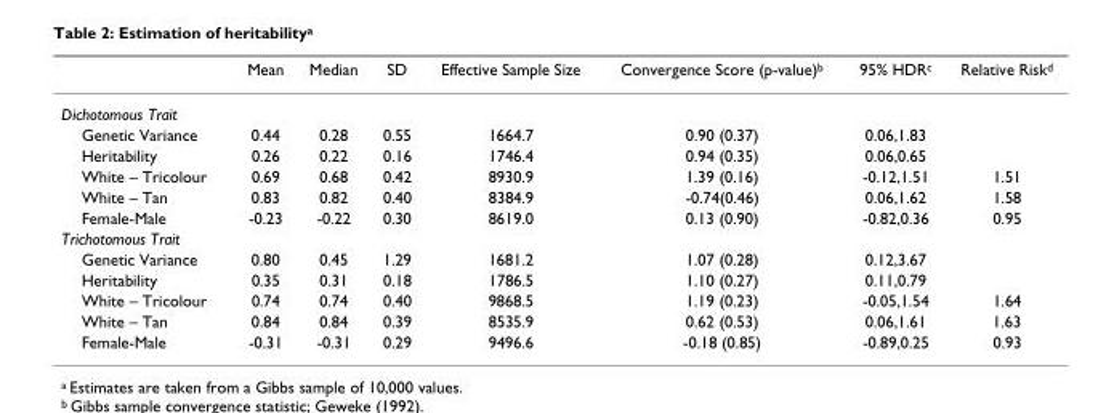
<table><thead><tr><td></td><td>Mean</td><td>Median</td><td>SD</td><td>Effective Sample Size</td><td>Convergence Score (p-value)<sup>b</sup></td><td>95% HDR<sup>c</sup></td><td>Relative Risk<sup>d</sup></td></tr></thead><tbody><tr><td colspan="8">Dichotomous Trait</td></tr><tr><td>Genetic Variance</td><td>0.44</td><td>0.28</td><td>0.55</td><td>1664.7</td><td>0.90 (0.37)</td><td>0.06,1.83</td><td></td></tr><tr><td>Heritability</td><td>0.26</td><td>0.22</td><td>0.16</td><td>1746.4</td><td>0.94 (0.35)</td><td>0.06,0.65</td><td></td></tr><tr><td>White – Tricolour</td><td>0.69</td><td>0.68</td><td>0.42</td><td>8930.9</td><td>1.39 (0.16)</td><td>-0.12,1.51</td><td>1.51</td></tr><tr><td>White – Tan</td><td>0.83</td><td>0.82</td><td>0.40</td><td>8384.9</td><td>-0.74(0.46)</td><td>0.06,1.62</td><td>1.58</td></tr><tr><td>Female-Male</td><td>-0.23</td><td>-0.22</td><td>0.30</td><td>8619.0</td><td>0.13 (0.90)</td><td>-0.82,0.36</td><td>0.95</td></tr><tr><td colspan="8">Trichotomous Trait</td></tr><tr><td>Genetic Variance</td><td>0.80</td><td>0.45</td><td>1.29</td><td>1681.2</td><td>1.07 (0.28)</td><td>0.12,3.67</td><td></td></tr><tr><td>Heritability</td><td>0.35</td><td>0.31</td><td>0.18</td><td>1786.5</td><td>1.10 (0.27)</td><td>0.11,0.79</td><td></td></tr><tr><td>White – Tricolour</td><td>0.74</td><td>0.74</td><td>0.40</td><td>9868.5</td><td>1.19 (0.23)</td><td>-0.05,1.54</td><td>1.64</td></tr><tr><td>White – Tan</td><td>0.84</td><td>0.84</td><td>0.39</td><td>8535.9</td><td>0.62 (0.53)</td><td>0.06,1.61</td><td>1.63</td></tr><tr><td>Female-Male</td><td>-0.31</td><td>-0.31</td><td>0.29</td><td>9496.6</td><td>-0.18 (0.85)</td><td>-0.89,0.25</td><td>0.93</td></tr></tbody></table>